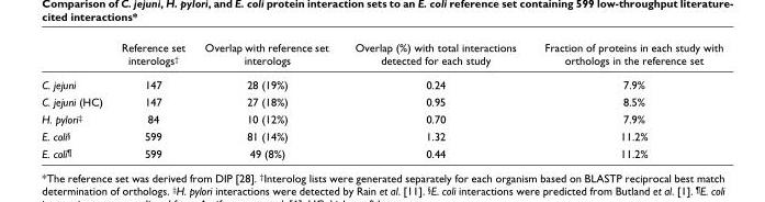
<table><thead><tr><td></td><td>Reference set interologs<sup>†</sup></td><td>Overlap with reference set interologs</td><td>Overlap (%) with total interactions detected for each study</td><td>Fraction of proteins in each study with orthologs in the reference set</td></tr></thead><tbody><tr><td>C. jejuni</td><td>147</td><td>28 (19%)</td><td>0.24</td><td>7.9%</td></tr><tr><td>C. jejuni (HC)</td><td>147</td><td>27 (18%)</td><td>0.95</td><td>8.5%</td></tr><tr><td>H. pylori<sup>‡</sup></td><td>84</td><td>10 (12%)</td><td>0.70</td><td>7.9%</td></tr><tr><td>E. coli<sup>§</sup></td><td>599</td><td>81 (14%)</td><td>1.32</td><td>11.2%</td></tr><tr><td>E. coli<sup>¶</sup></td><td>599</td><td>49 (8%)</td><td>0.44</td><td>11.2%</td></tr></tbody></table>